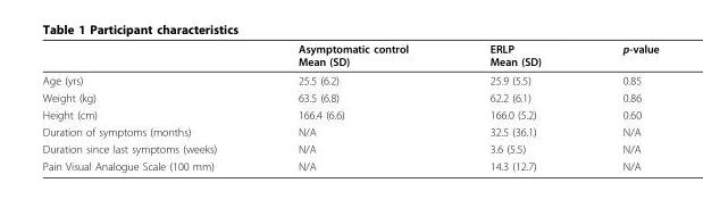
<table><thead><tr><td></td><td>Asymptomatic control Mean (SD)</td><td>ERLP Mean (SD)</td><td>p-value</td></tr></thead><tbody><tr><td>Age (yrs)</td><td>25.5 (6.2)</td><td>25.9 (5.5)</td><td>0.85</td></tr><tr><td>Weight (kg)</td><td>63.5 (6.8)</td><td>62.2 (6.1)</td><td>0.86</td></tr><tr><td>Height (cm)</td><td>166.4 (6.6)</td><td>166.0 (5.2)</td><td>0.60</td></tr><tr><td>Duration of symptoms (months)</td><td>N/A</td><td>32.5 (36.1)</td><td>N/A</td></tr><tr><td>Duration since last symptoms (weeks)</td><td>N/A</td><td>3.6 (5.5)</td><td>N/A</td></tr><tr><td>Pain Visual Analogue Scale (100 mm)</td><td>N/A</td><td>14.3 (12.7)</td><td>N/A</td></tr></tbody></table>